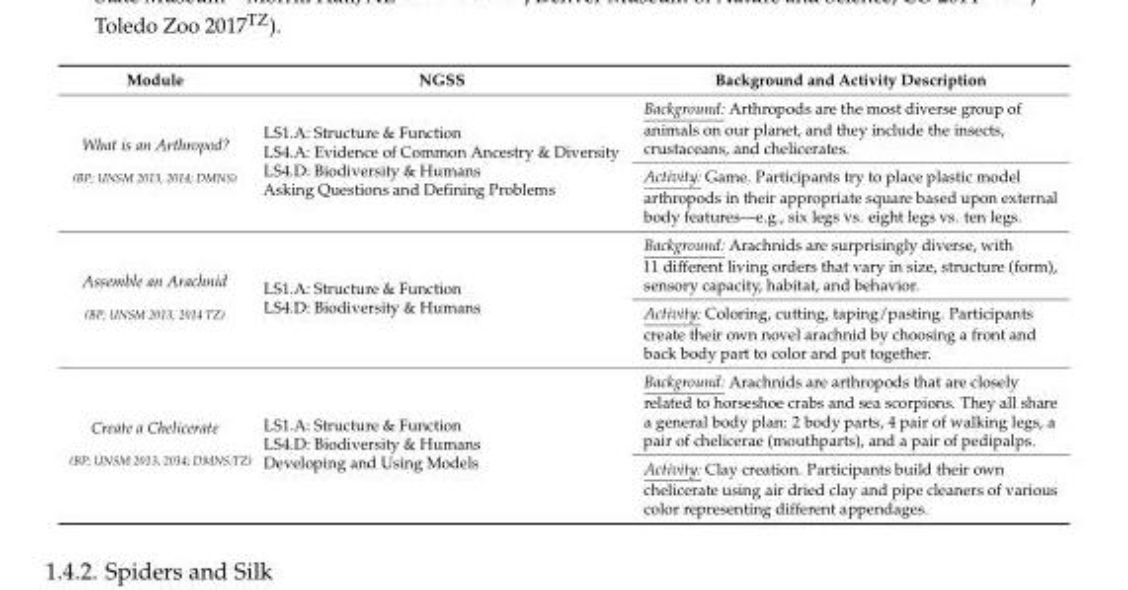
<table><thead><tr><td>Module</td><td>NGSS</td><td>Background and Activity Description</td></tr></thead><tbody><tr><td rowspan="2">What is an Arthropod? <sup>(BP; UNSM 2013, 2014; DMNS)</sup></td><td rowspan="2">LS1.A: Structure &amp; Function LS4.A: Evidence of Common Ancestry &amp; Diversity LS4.D: Biodiversity &amp; Humans Asking Questions and Defining Problems</td><td>Background: Arthropods are the most diverse group of animals on our planet, and they include the insects, crustaceans, and chelicerates.</td></tr><tr><td>Activity: Game. Participants try to place plastic model arthropods in their appropriate square based upon external body features—e.g., six legs vs. eight legs vs. ten legs.</td></tr><tr><td rowspan="2">Assemble an Arachnid <sup>(BP; UNSM 2013, 2014 TZ)</sup></td><td rowspan="2">LS1.A: Structure &amp; Function LS4.D: Biodiversity &amp; Humans</td><td>Background: Arachnids are surprisingly diverse, with 11 different living orders that vary in size, structure (form), sensory capacity, habitat, and behavior.</td></tr><tr><td>Activity: Coloring, cutting, taping/pasting. Participants create their own novel arachnid by choosing a front and back body part to color and put together.</td></tr><tr><td rowspan="2">Create a Chelicerate <sup>(BP; UNSM 2013, 2014; DMNS;TZ)</sup></td><td rowspan="2">LS1.A: Structure &amp; Function LS4.D: Biodiversity &amp; Humans Developing and Using Models</td><td>Background: Arachnids are arthropods that are closely related to horseshoe crabs and sea scorpions. They all share a general body plan: 2 body parts, 4 pair of walking legs, a pair of chelicerae (mouthparts), and a pair of pedipalps.</td></tr><tr><td>Activity: Clay creation. Participants build their own chelicerate using air dried clay and pipe cleaners of various color representing different appendages.</td></tr></tbody></table>